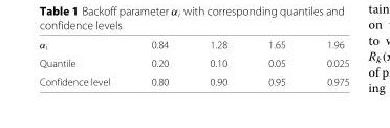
<table><tbody><tr><td>α<sub>i</sub></td><td>0.84</td><td>1.28</td><td>1.65</td><td>1.96</td></tr><tr><td>Quantile</td><td>0.20</td><td>0.10</td><td>0.05</td><td>0.025</td></tr><tr><td>Confidence level</td><td>0.80</td><td>0.90</td><td>0.95</td><td>0.975</td></tr></tbody></table>